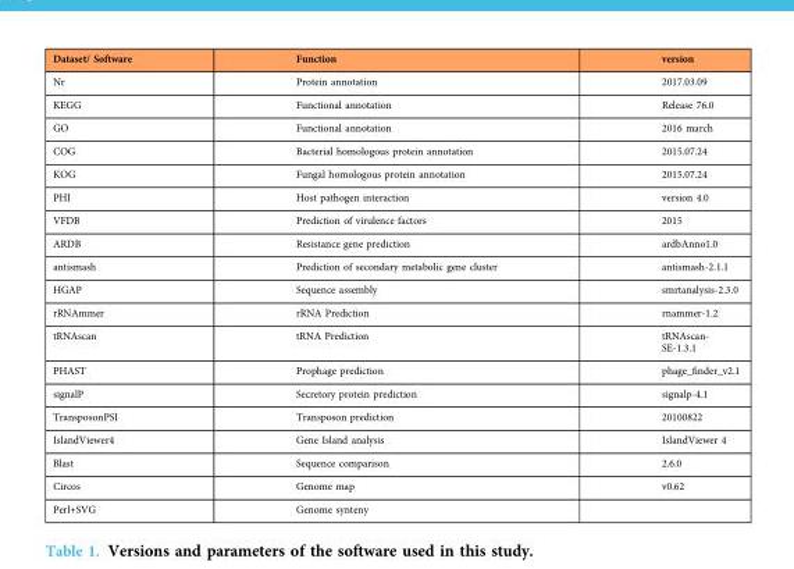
<table><thead><tr><td>Dataset/ Software</td><td>Function</td><td>version</td></tr></thead><tbody><tr><td>Nr</td><td>Protein annotation</td><td>2017.03.09</td></tr><tr><td>KEGG</td><td>Functional annotation</td><td>Release 76.0</td></tr><tr><td>GO</td><td>Functional annotation</td><td>2016 march</td></tr><tr><td>COG</td><td>Bacterial homologous protein annotation</td><td>2015.07.24</td></tr><tr><td>KOG</td><td>Fungal homologous protein annotation</td><td>2015.07.24</td></tr><tr><td>PHI</td><td>Host pathogen interaction</td><td>version 4.0</td></tr><tr><td>VFDB</td><td>Prediction of virulence factors</td><td>2015</td></tr><tr><td>ARDB</td><td>Resistance gene prediction</td><td>ardbAnno1.0</td></tr><tr><td>antismash</td><td>Prediction of secondary metabolic gene cluster</td><td>antismash-2.1.1</td></tr><tr><td>HGAP</td><td>Sequence assembly</td><td>smrtanalysis-2.3.0</td></tr><tr><td>rRNAmmer</td><td>rRNA Prediction</td><td>rnammer-1.2</td></tr><tr><td>tRNAscan</td><td>tRNA Prediction</td><td>tRNAscan- SE-1.3.1</td></tr><tr><td>PHAST</td><td>Prophage prediction</td><td>phage_finder_v2.1</td></tr><tr><td>signalP</td><td>Secretory protein prediction</td><td>signalp-4.1</td></tr><tr><td>TransposonPSI</td><td>Transposon prediction</td><td>20100822</td></tr><tr><td>IslandViewer4</td><td>Gene Island analysis</td><td>IslandViewer 4</td></tr><tr><td>Blast</td><td>Sequence comparison</td><td>2.6.0</td></tr><tr><td>Circos</td><td>Genome map</td><td>v0.62</td></tr><tr><td>Perl+SVG</td><td>Genome synteny</td><td></td></tr></tbody></table>